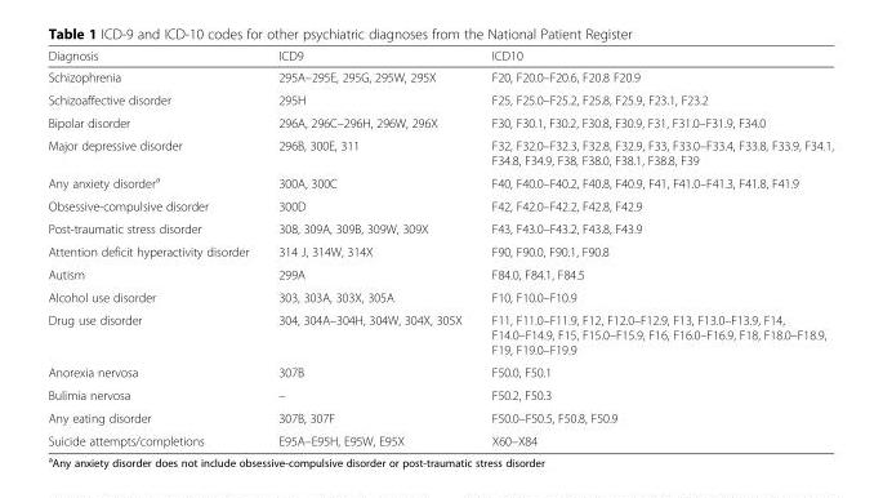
<table><thead><tr><td>Diagnosis</td><td>ICD9</td><td>ICD10</td></tr></thead><tbody><tr><td>Schizophrenia</td><td>295A–295E, 295G, 295W, 295X</td><td>F20, F20.0–F20.6, F20.8 F20.9</td></tr><tr><td>Schizoaffective disorder</td><td>295H</td><td>F25, F25.0–F25.2, F25.8, F25.9, F23.1, F23.2</td></tr><tr><td>Bipolar disorder</td><td>296A, 296C–296H, 296W, 296X</td><td>F30, F30.1, F30.2, F30.8, F30.9, F31, F31.0–F31.9, F34.0</td></tr><tr><td>Major depressive disorder</td><td>296B, 300E, 311</td><td>F32, F32.0–F32.3, F32.8, F32.9, F33, F33.0–F33.4, F33.8, F33.9, F34.1, F34.8, F34.9, F38, F38.0, F38.1, F38.8, F39</td></tr><tr><td>Any anxiety disorder<sup>a</sup></td><td>300A, 300C</td><td>F40, F40.0–F40.2, F40.8, F40.9, F41, F41.0–F41.3, F41.8, F41.9</td></tr><tr><td>Obsessive-compulsive disorder</td><td>300D</td><td>F42, F42.0–F42.2, F42.8, F42.9</td></tr><tr><td>Post-traumatic stress disorder</td><td>308, 309A, 309B, 309W, 309X</td><td>F43, F43.0–F43.2, F43.8, F43.9</td></tr><tr><td>Attention deficit hyperactivity disorder</td><td>314 J, 314W, 314X</td><td>F90, F90.0, F90.1, F90.8</td></tr><tr><td>Autism</td><td>299A</td><td>F84.0, F84.1, F84.5</td></tr><tr><td>Alcohol use disorder</td><td>303, 303A, 303X, 305A</td><td>F10, F10.0–F10.9</td></tr><tr><td>Drug use disorder</td><td>304, 304A–304H, 304W, 304X, 305X</td><td>F11, F11.0–F11.9, F12, F12.0–F12.9, F13, F13.0–F13.9, F14, F14.0–F14.9, F15, F15.0–F15.9, F16, F16.0–F16.9, F18, F18.0–F18.9, F19, F19.0–F19.9</td></tr><tr><td>Anorexia nervosa</td><td>307B</td><td>F50.0, F50.1</td></tr><tr><td>Bulimia nervosa</td><td>–</td><td>F50.2, F50.3</td></tr><tr><td>Any eating disorder</td><td>307B, 307F</td><td>F50.0–F50.5, F50.8, F50.9</td></tr><tr><td>Suicide attempts/completions</td><td>E95A–E95H, E95W, E95X</td><td>X60–X84</td></tr></tbody></table>